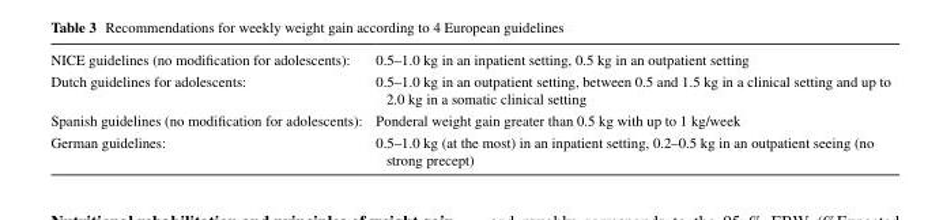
<table><tbody><tr><td>NICE guidelines (no modification for adolescents):</td><td>0.5–1.0 kg in an inpatient setting, 0.5 kg in an outpatient setting</td></tr><tr><td>Dutch guidelines for adolescents:</td><td>0.5–1.0 kg in an outpatient setting, between 0.5 and 1.5 kg in a clinical setting and up to 2.0 kg in a somatic clinical setting</td></tr><tr><td>Spanish guidelines (no modification for adolescents):</td><td>Ponderal weight gain greater than 0.5 kg with up to 1 kg/week</td></tr><tr><td>German guidelines:</td><td>0.5–1.0 kg (at the most) in an inpatient setting, 0.2–0.5 kg in an outpatient seeing (no strong precept)</td></tr></tbody></table>